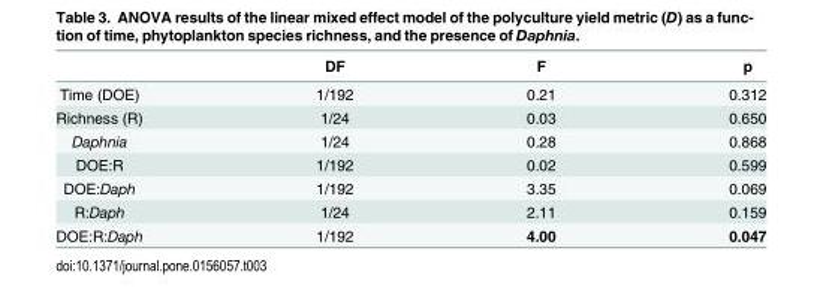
<table><thead><tr><td></td><td>DF</td><td>F</td><td>p</td></tr></thead><tbody><tr><td>Time (DOE)</td><td>1/192</td><td>0.21</td><td>0.312</td></tr><tr><td>Richness (R)</td><td>1/24</td><td>0.03</td><td>0.650</td></tr><tr><td>Daphnia</td><td>1/24</td><td>0.28</td><td>0.868</td></tr><tr><td>DOE:R</td><td>1/192</td><td>0.02</td><td>0.599</td></tr><tr><td>DOE:Daph</td><td>1/192</td><td>3.35</td><td>0.069</td></tr><tr><td>R:Daph</td><td>1/24</td><td>2.11</td><td>0.159</td></tr><tr><td>DOE:R:Daph</td><td>1/192</td><td>4.00</td><td>0.047</td></tr></tbody></table>